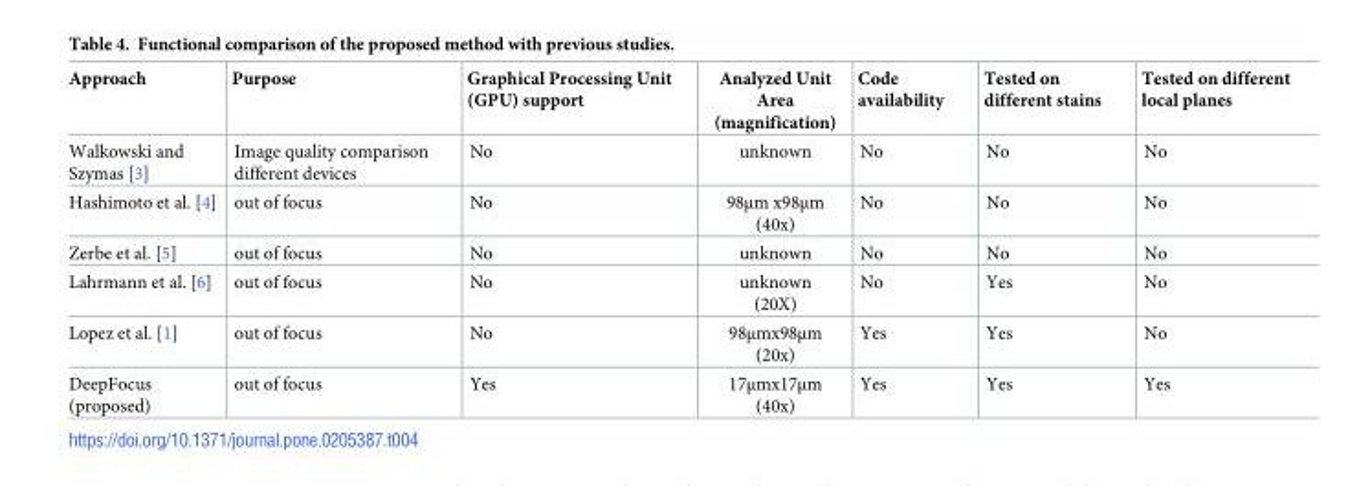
<table><thead><tr><td>Approach</td><td>Purpose</td><td>Graphical Processing Unit (GPU) support</td><td>Analyzed Unit Area (magnification)</td><td>Code availability</td><td>Tested on different stains</td><td>Tested on different local planes</td></tr></thead><tbody><tr><td>Walkowski and Szymas [3]</td><td>Image quality comparison different devices</td><td>No</td><td>unknown</td><td>No</td><td>No</td><td>No</td></tr><tr><td>Hashimoto et al. [4]</td><td>out of focus</td><td>No</td><td>98μm x98μm (40x)</td><td>No</td><td>No</td><td>No</td></tr><tr><td>Zerbe et al. [5]</td><td>out of focus</td><td>No</td><td>unknown</td><td>No</td><td>No</td><td>No</td></tr><tr><td>Lahrmann et al. [6]</td><td>out of focus</td><td>No</td><td>unknown (20X)</td><td>No</td><td>Yes</td><td>No</td></tr><tr><td>Lopez et al. [1]</td><td>out of focus</td><td>No</td><td>98μmx98μm (20x)</td><td>Yes</td><td>Yes</td><td>No</td></tr><tr><td>DeepFocus (proposed)</td><td>out of focus</td><td>Yes</td><td>17μmx17μm (40x)</td><td>Yes</td><td>Yes</td><td>Yes</td></tr></tbody></table>